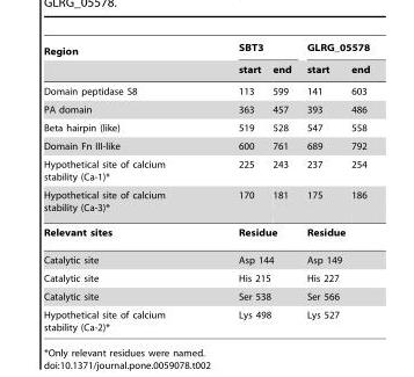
<table><thead><tr><td rowspan="2">Region</td><td colspan="2">SBT3</td><td colspan="2">GLRG_05578</td></tr><tr><td>start</td><td>end</td><td>start</td><td>end</td></tr></thead><tbody><tr><td>Domain peptidase S8</td><td>113</td><td>599</td><td>141</td><td>603</td></tr><tr><td>PA domain</td><td>363</td><td>457</td><td>393</td><td>486</td></tr><tr><td>Beta hairpin (like)</td><td>519</td><td>528</td><td>547</td><td>558</td></tr><tr><td>Domain Fn III-like</td><td>600</td><td>761</td><td>689</td><td>792</td></tr><tr><td>Hypothetical site of calcium stability (Ca-1)*</td><td>225</td><td>243</td><td>237</td><td>254</td></tr><tr><td>Hypothetical site of calcium stability (Ca-3)*</td><td>170</td><td>181</td><td>175</td><td>186</td></tr><tr><td>Relevant sites</td><td colspan="2">Residue</td><td colspan="2">Residue</td></tr><tr><td>Catalytic site</td><td colspan="2">Asp 144</td><td colspan="2">Asp 149</td></tr><tr><td>Catalytic site</td><td colspan="2">His 215</td><td colspan="2">His 227</td></tr><tr><td>Catalytic site</td><td colspan="2">Ser 538</td><td colspan="2">Ser 566</td></tr><tr><td>Hypothetical site of calcium stability (Ca-2)*</td><td colspan="2">Lys 498</td><td colspan="2">Lys 527</td></tr></tbody></table>